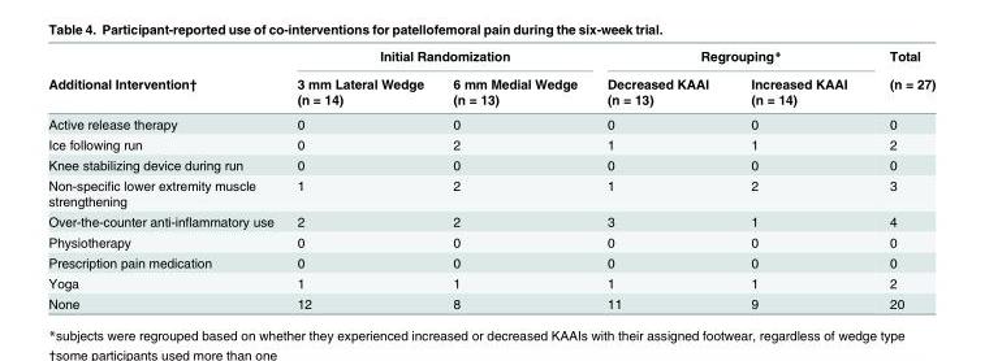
<table><thead><tr><td rowspan="2">Additional Intervention†</td><td colspan="2">Initial Randomization</td><td colspan="2">Regrouping*</td><td rowspan="2">Total (n = 27)</td></tr><tr><td>3 mm Lateral Wedge (n = 14)</td><td>6 mm Medial Wedge (n = 13)</td><td>Decreased KAAI (n = 13)</td><td>Increased KAAI (n = 14)</td></tr></thead><tbody><tr><td>Active release therapy</td><td>0</td><td>0</td><td>0</td><td>0</td><td>0</td></tr><tr><td>Ice following run</td><td>0</td><td>2</td><td>1</td><td>1</td><td>2</td></tr><tr><td>Knee stabilizing device during run</td><td>0</td><td>0</td><td>0</td><td>0</td><td>0</td></tr><tr><td>Non-specific lower extremity muscle strengthening</td><td>1</td><td>2</td><td>1</td><td>2</td><td>3</td></tr><tr><td>Over-the-counter anti-inflammatory use</td><td>2</td><td>2</td><td>3</td><td>1</td><td>4</td></tr><tr><td>Physiotherapy</td><td>0</td><td>0</td><td>0</td><td>0</td><td>0</td></tr><tr><td>Prescription pain medication</td><td>0</td><td>0</td><td>0</td><td>0</td><td>0</td></tr><tr><td>Yoga</td><td>1</td><td>1</td><td>1</td><td>1</td><td>2</td></tr><tr><td>None</td><td>12</td><td>8</td><td>11</td><td>9</td><td>20</td></tr></tbody></table>